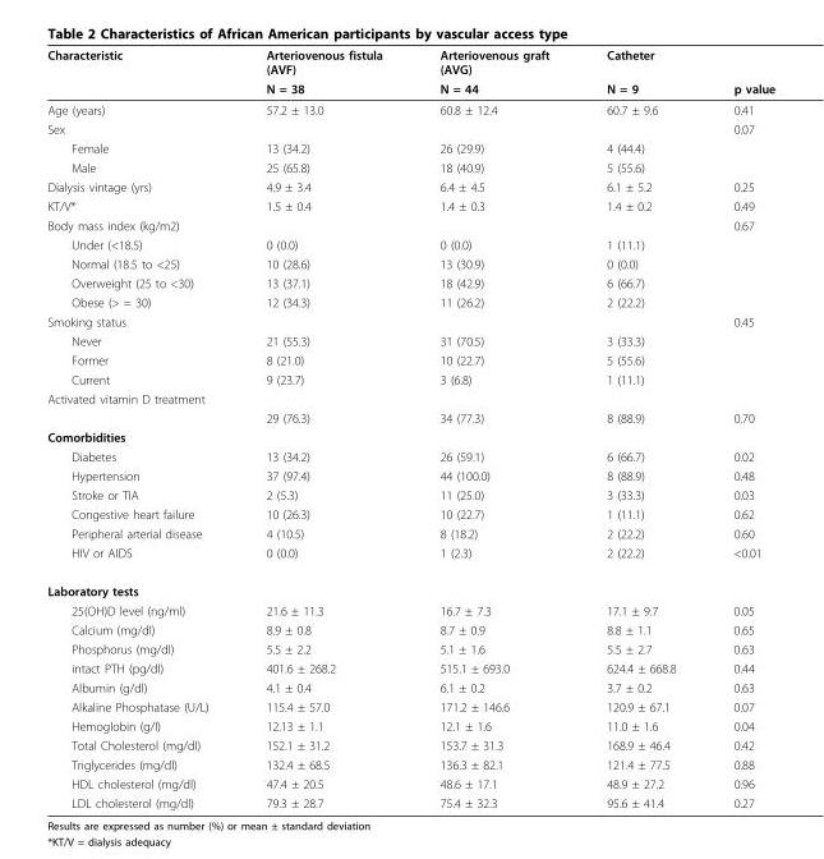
<table><thead><tr><td rowspan="2">Characteristic</td><td rowspan="2">Arteriovenous fistula (AVF) N = 38</td><td rowspan="2">Arteriovenous graft (AVG) N = 44</td><td rowspan="2">Catheter N = 9</td><td rowspan="2">p value</td></tr><tr></tr></thead><tbody><tr><td>Age (years)</td><td>57.2 ± 13.0</td><td>60.8 ± 12.4</td><td>60.7 ± 9.6</td><td>0.41</td></tr><tr><td>Sex</td><td></td><td></td><td></td><td>0.07</td></tr><tr><td>Female</td><td>13 (34.2)</td><td>26 (29.9)</td><td>4 (44.4)</td><td></td></tr><tr><td>Male</td><td>25 (65.8)</td><td>18 (40.9)</td><td>5 (55.6)</td><td></td></tr><tr><td>Dialysis vintage (yrs)</td><td>4.9 ± 3.4</td><td>6.4 ± 4.5</td><td>6.1 ± 5.2</td><td>0.25</td></tr><tr><td>KT/V*</td><td>1.5 ± 0.4</td><td>1.4 ± 0.3</td><td>1.4 ± 0.2</td><td>0.49</td></tr><tr><td>Body mass index (kg/m2)</td><td></td><td></td><td></td><td>0.67</td></tr><tr><td>Under (&lt;18.5)</td><td>0 (0.0)</td><td>0 (0.0)</td><td>1 (11.1)</td><td></td></tr><tr><td>Normal (18.5 to &lt;25)</td><td>10 (28.6)</td><td>13 (30.9)</td><td>0 (0.0)</td><td></td></tr><tr><td>Overweight (25 to &lt;30)</td><td>13 (37.1)</td><td>18 (42.9)</td><td>6 (66.7)</td><td></td></tr><tr><td>Obese (&gt; = 30)</td><td>12 (34.3)</td><td>11 (26.2)</td><td>2 (22.2)</td><td></td></tr><tr><td>Smoking status</td><td></td><td></td><td></td><td>0.45</td></tr><tr><td>Never</td><td>21 (55.3)</td><td>31 (70.5)</td><td>3 (33.3)</td><td></td></tr><tr><td>Former</td><td>8 (21.0)</td><td>10 (22.7)</td><td>5 (55.6)</td><td></td></tr><tr><td>Current</td><td>9 (23.7)</td><td>3 (6.8)</td><td>1 (11.1)</td><td></td></tr><tr><td colspan="5">Activated vitamin D treatment</td></tr><tr><td></td><td>29 (76.3)</td><td>34 (77.3)</td><td>8 (88.9)</td><td>0.70</td></tr><tr><td colspan="5">Comorbidities</td></tr><tr><td>Diabetes</td><td>13 (34.2)</td><td>26 (59.1)</td><td>6 (66.7)</td><td>0.02</td></tr><tr><td>Hypertension</td><td>37 (97.4)</td><td>44 (100.0)</td><td>8 (88.9)</td><td>0.48</td></tr><tr><td>Stroke or TIA</td><td>2 (5.3)</td><td>11 (25.0)</td><td>3 (33.3)</td><td>0.03</td></tr><tr><td>Congestive heart failure</td><td>10 (26.3)</td><td>10 (22.7)</td><td>1 (11.1)</td><td>0.62</td></tr><tr><td>Peripheral arterial disease</td><td>4 (10.5)</td><td>8 (18.2)</td><td>2 (22.2)</td><td>0.60</td></tr><tr><td>HIV or AIDS</td><td>0 (0.0)</td><td>1 (2.3)</td><td>2 (22.2)</td><td>&lt;0.01</td></tr><tr><td colspan="5">Laboratory tests</td></tr><tr><td>25(OH)D level (ng/ml)</td><td>21.6 ± 11.3</td><td>16.7 ± 7.3</td><td>17.1 ± 9.7</td><td>0.05</td></tr><tr><td>Calcium (mg/dl)</td><td>8.9 ± 0.8</td><td>8.7 ± 0.9</td><td>8.8 ± 1.1</td><td>0.65</td></tr><tr><td>Phosphorus (mg/dl)</td><td>5.5 ± 2.2</td><td>5.1 ± 1.6</td><td>5.5 ± 2.7</td><td>0.63</td></tr><tr><td>intact PTH (pg/dl)</td><td>401.6 ± 268.2</td><td>515.1 ± 693.0</td><td>624.4 ± 668.8</td><td>0.44</td></tr><tr><td>Albumin (g/dl)</td><td>4.1 ± 0.4</td><td>6.1 ± 0.2</td><td>3.7 ± 0.2</td><td>0.63</td></tr><tr><td>Alkaline Phosphatase (U/L)</td><td>115.4 ± 57.0</td><td>171.2 ± 146.6</td><td>120.9 ± 67.1</td><td>0.07</td></tr><tr><td>Hemoglobin (g/l)</td><td>12.13 ± 1.1</td><td>12.1 ± 1.6</td><td>11.0 ± 1.6</td><td>0.04</td></tr><tr><td>Total Cholesterol (mg/dl)</td><td>152.1 ± 31.2</td><td>153.7 ± 31.3</td><td>168.9 ± 46.4</td><td>0.42</td></tr><tr><td>Triglycerides (mg/dl)</td><td>132.4 ± 68.5</td><td>136.3 ± 82.1</td><td>121.4 ± 77.5</td><td>0.88</td></tr><tr><td>HDL cholesterol (mg/dl)</td><td>47.4 ± 20.5</td><td>48.6 ± 17.1</td><td>48.9 ± 27.2</td><td>0.96</td></tr><tr><td>LDL cholesterol (mg/dl)</td><td>79.3 ± 28.7</td><td>75.4 ± 32.3</td><td>95.6 ± 41.4</td><td>0.27</td></tr></tbody></table>